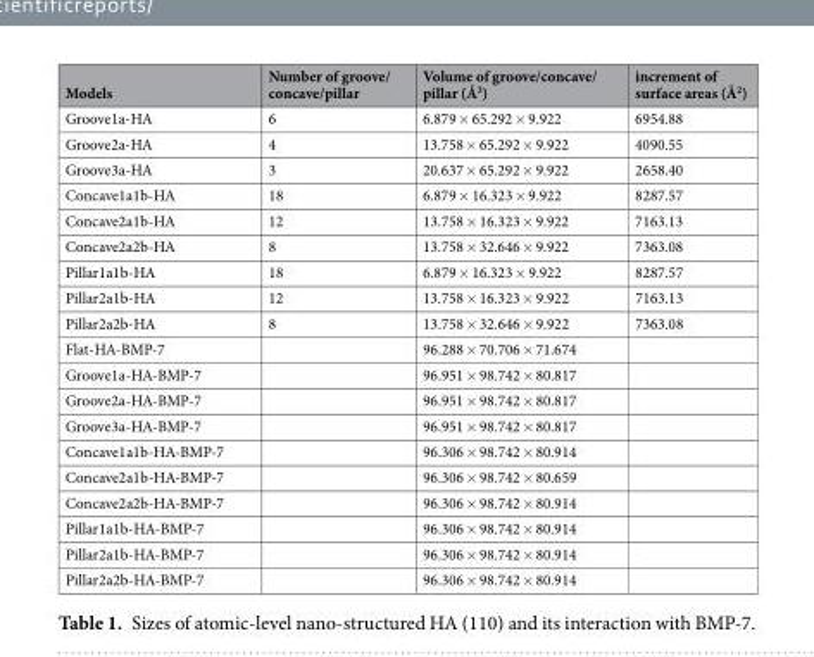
<table><thead><tr><td>Models</td><td>Number of groove/ concave/pillar</td><td>Volume of groove/concave/ pillar (Å<sup>3</sup>)</td><td>increment of surface areas (Å<sup>2</sup>)</td></tr></thead><tbody><tr><td>Groove1a-HA</td><td>6</td><td>6.879 × 65.292 × 9.922</td><td>6954.88</td></tr><tr><td>Groove2a-HA</td><td>4</td><td>13.758 × 65.292 × 9.922</td><td>4090.55</td></tr><tr><td>Groove3a-HA</td><td>3</td><td>20.637 × 65.292 × 9.922</td><td>2658.40</td></tr><tr><td>Concave1a1b-HA</td><td>18</td><td>6.879 × 16.323 × 9.922</td><td>8287.57</td></tr><tr><td>Concave2a1b-HA</td><td>12</td><td>13.758 × 16.323 × 9.922</td><td>7163.13</td></tr><tr><td>Concave2a2b-HA</td><td>8</td><td>13.758 × 32.646 × 9.922</td><td>7363.08</td></tr><tr><td>Pillar1a1b-HA</td><td>18</td><td>6.879 × 16.323 × 9.922</td><td>8287.57</td></tr><tr><td>Pillar2a1b-HA</td><td>12</td><td>13.758 × 16.323 × 9.922</td><td>7163.13</td></tr><tr><td>Pillar2a2b-HA</td><td>8</td><td>13.758 × 32.646 × 9.922</td><td>7363.08</td></tr><tr><td>Flat-HA-BMP-7</td><td></td><td>96.288 × 70.706 × 71.674</td><td></td></tr><tr><td>Groove1a-HA-BMP-7</td><td></td><td>96.951 × 98.742 × 80.817</td><td></td></tr><tr><td>Groove2a-HA-BMP-7</td><td></td><td>96.951 × 98.742 × 80.817</td><td></td></tr><tr><td>Groove3a-HA-BMP-7</td><td></td><td>96.951 × 98.742 × 80.817</td><td></td></tr><tr><td>Concave1a1b-HA-BMP-7</td><td></td><td>96.306 × 98.742 × 80.914</td><td></td></tr><tr><td>Concave2a1b-HA-BMP-7</td><td></td><td>96.306 × 98.742 × 80.659</td><td></td></tr><tr><td>Concave2a2b-HA-BMP-7</td><td></td><td>96.306 × 98.742 × 80.914</td><td></td></tr><tr><td>Pillar1a1b-HA-BMP-7</td><td></td><td>96.306 × 98.742 × 80.914</td><td></td></tr><tr><td>Pillar2a1b-HA-BMP-7</td><td></td><td>96.306 × 98.742 × 80.914</td><td></td></tr><tr><td>Pillar2a2b-HA-BMP-7</td><td></td><td>96.306 × 98.742 × 80.914</td><td></td></tr></tbody></table>